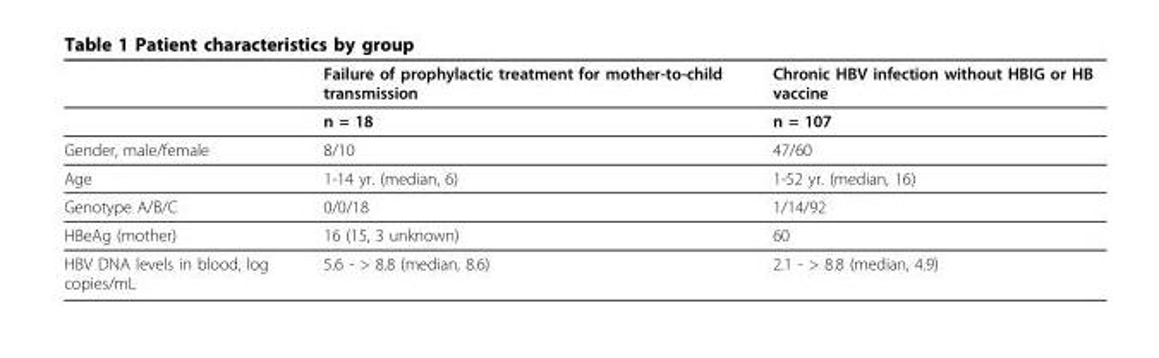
<table><thead><tr><td></td><td>Failure of prophylactic treatment for mother-to-child transmission</td><td>Chronic HBV infection without HBIG or HB vaccine</td></tr></thead><tbody><tr><td></td><td>n = 18</td><td>n = 107</td></tr><tr><td>Gender, male/female</td><td>8/10</td><td>47/60</td></tr><tr><td>Age</td><td>1-14 yr. (median, 6)</td><td>1-52 yr. (median, 16)</td></tr><tr><td>Genotype A/B/C</td><td>0/0/18</td><td>1/14/92</td></tr><tr><td>HBeAg (mother)</td><td>16 (15, 3 unknown)</td><td>60</td></tr><tr><td>HBV DNA levels in blood, log copies/mL</td><td>5.6 - &gt; 8.8 (median, 8.6)</td><td>2.1 - &gt; 8.8 (median, 4.9)</td></tr></tbody></table>